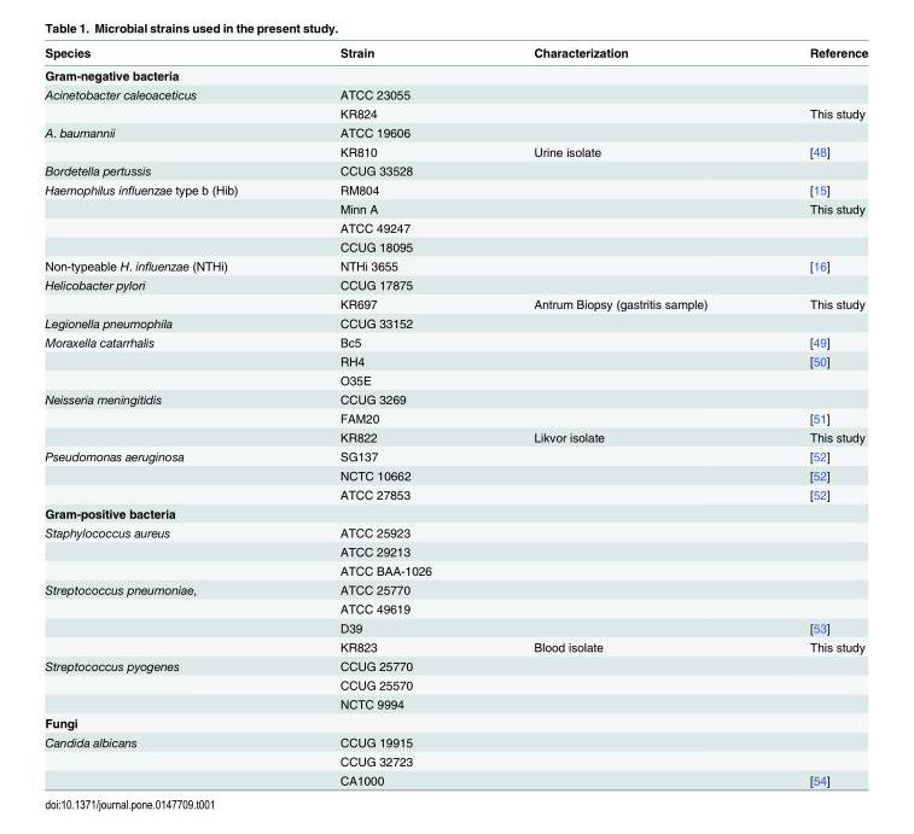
<table><thead><tr><td>Species</td><td>Strain</td><td>Characterization</td><td>Reference</td></tr></thead><tbody><tr><td colspan="4">Gram-negative bacteria</td></tr><tr><td rowspan="2">Acinetobacter caleoaceticus</td><td>ATCC 23055</td><td></td><td></td></tr><tr><td>KR824</td><td></td><td>This study</td></tr><tr><td rowspan="2">A. baumannii</td><td>ATCC 19606</td><td></td><td></td></tr><tr><td>KR810</td><td>Urine isolate</td><td>[48]</td></tr><tr><td>Bordetella pertussis</td><td>CCUG 33528</td><td></td><td></td></tr><tr><td rowspan="4">Haemophilus influenzae type b (Hib)</td><td>RM804</td><td></td><td>[15]</td></tr><tr><td>Minn A</td><td></td><td>This study</td></tr><tr><td>ATCC 49247</td><td></td><td></td></tr><tr><td>CCUG 18095</td><td></td><td></td></tr><tr><td>Non-typeable H. influenzae (NTHi)</td><td>NTHi 3655</td><td></td><td>[16]</td></tr><tr><td rowspan="2">Helicobacter pylori</td><td>CCUG 17875</td><td></td><td></td></tr><tr><td>KR697</td><td>Antrum Biopsy (gastritis sample)</td><td>This study</td></tr><tr><td>Legionella pneumophila</td><td>CCUG 33152</td><td></td><td></td></tr><tr><td rowspan="3">Moraxella catarrhalis</td><td>Bc5</td><td></td><td>[49]</td></tr><tr><td>RH4</td><td></td><td>[50]</td></tr><tr><td>O35E</td><td></td><td></td></tr><tr><td rowspan="3">Neisseria meningitidis</td><td>CCUG 3269</td><td></td><td></td></tr><tr><td>FAM20</td><td></td><td>[51]</td></tr><tr><td>KR822</td><td>Likvor isolate</td><td>This study</td></tr><tr><td rowspan="3">Pseudomonas aeruginosa</td><td>SG137</td><td></td><td>[52]</td></tr><tr><td>NCTC 10662</td><td></td><td>[52]</td></tr><tr><td>ATCC 27853</td><td></td><td>[52]</td></tr><tr><td colspan="4">Gram-positive bacteria</td></tr><tr><td rowspan="3">Staphylococcus aureus</td><td>ATCC 25923</td><td></td><td></td></tr><tr><td>ATCC 29213</td><td></td><td></td></tr><tr><td>ATCC BAA-1026</td><td></td><td></td></tr><tr><td rowspan="4">Streptococcus pneumoniae,</td><td>ATCC 25770</td><td></td><td></td></tr><tr><td>ATCC 49619</td><td></td><td></td></tr><tr><td>D39</td><td></td><td>[53]</td></tr><tr><td>KR823</td><td>Blood isolate</td><td>This study</td></tr><tr><td rowspan="3">Streptococcus pyogenes</td><td>CCUG 25770</td><td></td><td></td></tr><tr><td>CCUG 25570</td><td></td><td></td></tr><tr><td>NCTC 9994</td><td></td><td></td></tr><tr><td colspan="4">Fungi</td></tr><tr><td rowspan="3">Candida albicans</td><td>CCUG 19915</td><td></td><td></td></tr><tr><td>CCUG 32723</td><td></td><td></td></tr><tr><td>CA1000</td><td></td><td>[54]</td></tr></tbody></table>